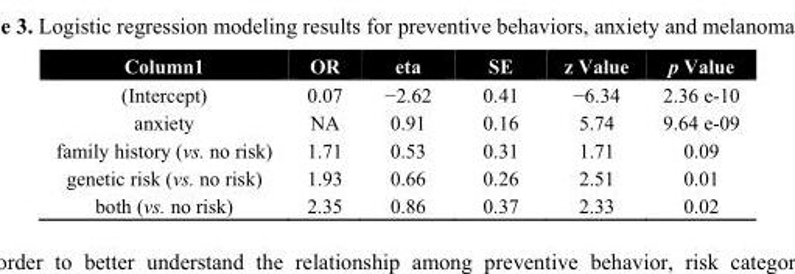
<table><thead><tr><td>Column1</td><td>OR</td><td>eta</td><td>SE</td><td>z Value</td><td>p Value</td></tr></thead><tbody><tr><td>(Intercept)</td><td>0.07</td><td>−2.62</td><td>0.41</td><td>−6.34</td><td>2.36 e-10</td></tr><tr><td>anxiety</td><td>NA</td><td>0.91</td><td>0.16</td><td>5.74</td><td>9.64 e-09</td></tr><tr><td>family history (vs. no risk)</td><td>1.71</td><td>0.53</td><td>0.31</td><td>1.71</td><td>0.09</td></tr><tr><td>genetic risk (vs. no risk)</td><td>1.93</td><td>0.66</td><td>0.26</td><td>2.51</td><td>0.01</td></tr><tr><td>both (vs. no risk)</td><td>2.35</td><td>0.86</td><td>0.37</td><td>2.33</td><td>0.02</td></tr></tbody></table>